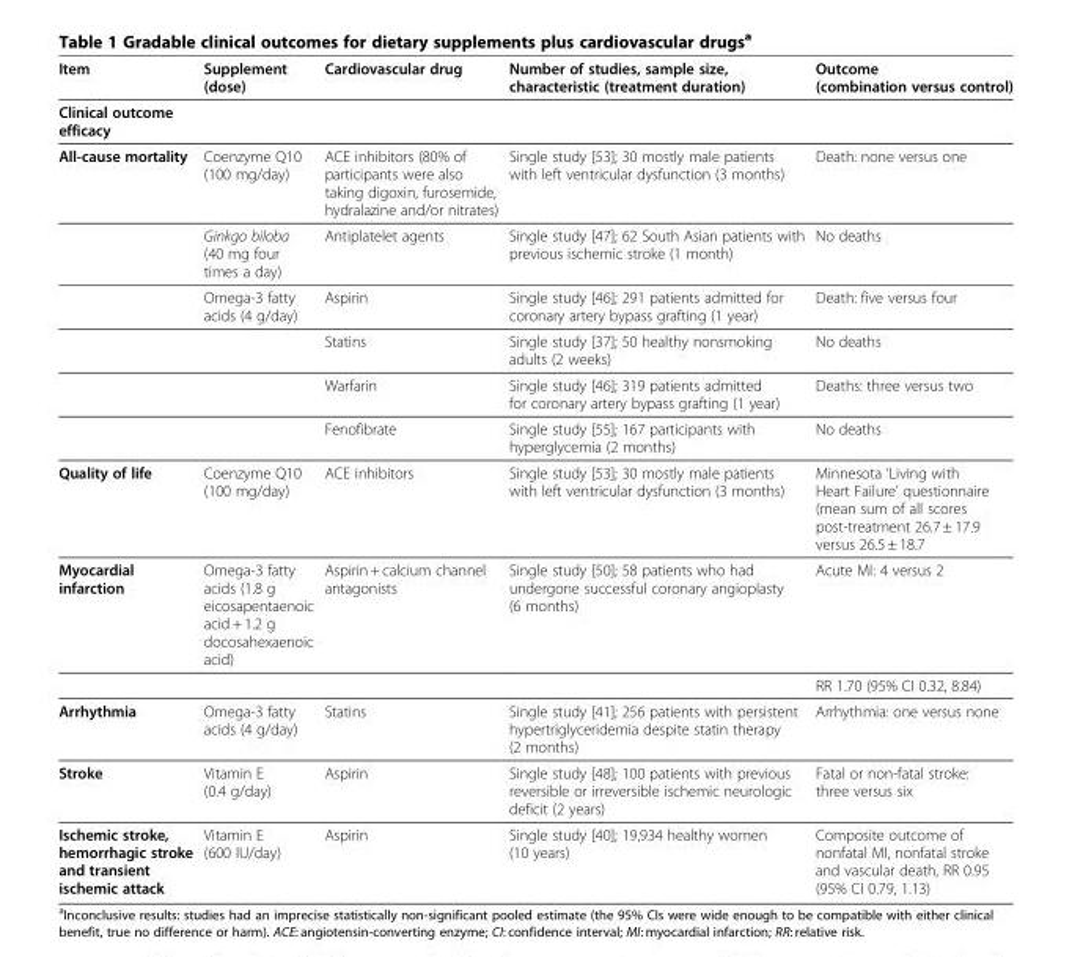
<table><thead><tr><td>Item</td><td>Supplement (dose)</td><td>Cardiovascular drug</td><td>Number of studies, sample size, characteristic (treatment duration)</td><td>Outcome (combination versus control)</td></tr></thead><tbody><tr><td colspan="5">Clinical outcome efficacy</td></tr><tr><td rowspan="6">All-cause mortality</td><td>Coenzyme Q10 (100 mg/day)</td><td>ACE inhibitors (80% of participants were also taking digoxin, furosemide, hydralazine and/or nitrates)</td><td>Single study [53]; 30 mostly male patients with left ventricular dysfunction (3 months)</td><td>Death: none versus one</td></tr><tr><td>Ginkgo biloba (40 mg four times a day)</td><td>Antiplatelet agents</td><td>Single study [47]; 62 South Asian patients with previous ischemic stroke (1 month)</td><td>No deaths</td></tr><tr><td>Omega-3 fatty acids (4 g/day)</td><td>Aspirin</td><td>Single study [46]; 291 patients admitted for coronary artery bypass grafting (1 year)</td><td>Death: five versus four</td></tr><tr><td></td><td>Statins</td><td>Single study [37]; 50 healthy nonsmoking adults (2 weeks)</td><td>No deaths</td></tr><tr><td></td><td>Warfarin</td><td>Single study [46]; 319 patients admitted for coronary artery bypass grafting (1 year)</td><td>Deaths: three versus two</td></tr><tr><td></td><td>Fenofibrate</td><td>Single study [55]; 167 participants with hyperglycemia (2 months)</td><td>No deaths</td></tr><tr><td>Quality of life</td><td>Coenzyme Q10 (100 mg/day)</td><td>ACE inhibitors</td><td>Single study [53]; 30 mostly male patients with left ventricular dysfunction (3 months)</td><td>Minnesota ‘Living with Heart Failure’ questionnaire (mean sum of all scores post-treatment 26.7 ± 17.9 versus 26.5 ± 18.7</td></tr><tr><td rowspan="2">Myocardial infarction</td><td>Omega-3 fatty acids (1.8 g eicosapentaenoic acid + 1.2 g docosahexaenoic acid)</td><td>Aspirin + calcium channel antagonists</td><td>Single study [50]; 58 patients who had undergone successful coronary angioplasty (6 months)</td><td>Acute MI: 4 versus 2</td></tr><tr><td></td><td></td><td></td><td>RR 1.70 (95% CI 0.32, 8.84)</td></tr><tr><td>Arrhythmia</td><td>Omega-3 fatty acids (4 g/day)</td><td>Statins</td><td>Single study [41]; 256 patients with persistent hypertriglyceridemia despite statin therapy (2 months)</td><td>Arrhythmia: one versus none</td></tr><tr><td>Stroke</td><td>Vitamin E (0.4 g/day)</td><td>Aspirin</td><td>Single study [48]; 100 patients with previous reversible or irreversible ischemic neurologic deficit (2 years)</td><td>Fatal or non-fatal stroke: three versus six</td></tr><tr><td>Ischemic stroke, hemorrhagic stroke and transient ischemic attack</td><td>Vitamin E (600 IU/day)</td><td>Aspirin</td><td>Single study [40]; 19,934 healthy women (10 years)</td><td>Composite outcome of nonfatal MI, nonfatal stroke and vascular death, RR 0.95 (95% CI 0.79, 1.13)</td></tr></tbody></table>